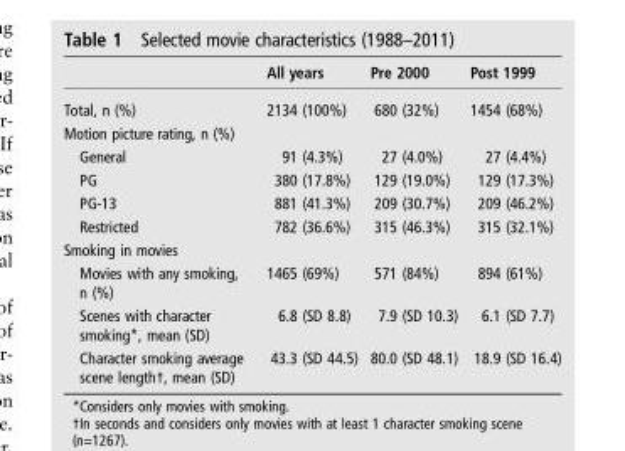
<table><thead><tr><td></td><td>All years</td><td>Pre 2000</td><td>Post 1999</td></tr></thead><tbody><tr><td>Total, n (%)</td><td>2134 (100%)</td><td>680 (32%)</td><td>1454 (68%)</td></tr><tr><td colspan="4">Motion picture rating, n (%)</td></tr><tr><td>General</td><td>91 (4.3%)</td><td>27 (4.0%)</td><td>27 (4.4%)</td></tr><tr><td>PG</td><td>380 (17.8%)</td><td>129 (19.0%)</td><td>129 (17.3%)</td></tr><tr><td>PG-13</td><td>881 (41.3%)</td><td>209 (30.7%)</td><td>209 (46.2%)</td></tr><tr><td>Restricted</td><td>782 (36.6%)</td><td>315 (46.3%)</td><td>315 (32.1%)</td></tr><tr><td colspan="4">Smoking in movies</td></tr><tr><td>Movies with any smoking, n (%)</td><td>1465 (69%)</td><td>571 (84%)</td><td>894 (61%)</td></tr><tr><td>Scenes with character smoking*, mean (SD)</td><td>6.8 (SD 8.8)</td><td>7.9 (SD 10.3)</td><td>6.1 (SD 7.7)</td></tr><tr><td>Character smoking average scene length†, mean (SD)</td><td>43.3 (SD 44.5)</td><td>80.0 (SD 48.1)</td><td>18.9 (SD 16.4)</td></tr></tbody></table>